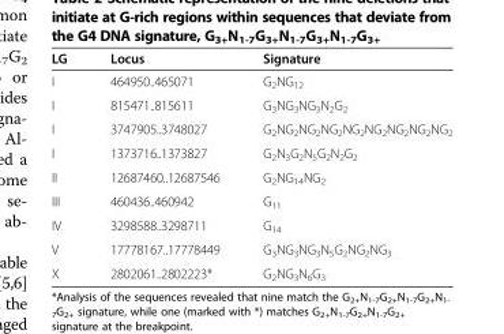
<table><thead><tr><td>LG</td><td>Locus</td><td>Signature</td></tr></thead><tbody><tr><td>I</td><td>464950..465071</td><td>G<sub>2</sub>NG<sub>12</sub></td></tr><tr><td>I</td><td>815471..815611</td><td>G<sub>3</sub>NG<sub>3</sub>NG<sub>3</sub>N<sub>2</sub>G<sub>2</sub></td></tr><tr><td>I</td><td>3747905..3748027</td><td>G<sub>2</sub>NG<sub>2</sub>NG<sub>2</sub>NG<sub>2</sub>NG<sub>2</sub>NG<sub>2</sub>NG<sub>2</sub>NG<sub>2</sub>NG<sub>2</sub></td></tr><tr><td>I</td><td>1373716..1373827</td><td>G<sub>2</sub>N<sub>3</sub>G<sub>2</sub>N<sub>5</sub>G<sub>2</sub>N<sub>2</sub>G<sub>2</sub></td></tr><tr><td>II</td><td>12687460..12687546</td><td>G<sub>2</sub>NG<sub>14</sub>NG<sub>2</sub></td></tr><tr><td>III</td><td>460436..460942</td><td>G<sub>11</sub></td></tr><tr><td>IV</td><td>3298588..3298711</td><td>G<sub>14</sub></td></tr><tr><td>V</td><td>17778167..17778449</td><td>G<sub>3</sub>NG<sub>3</sub>NG<sub>3</sub>N<sub>5</sub>G<sub>2</sub>NG<sub>2</sub>NG<sub>3</sub></td></tr><tr><td>X</td><td>2802061..2802223*</td><td>G<sub>2</sub>NG<sub>3</sub>N<sub>6</sub>G<sub>3</sub></td></tr></tbody></table>